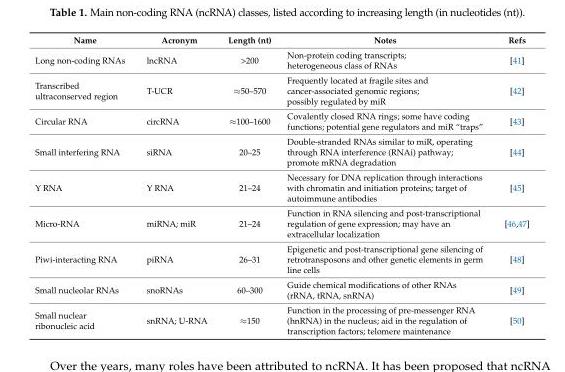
<table><thead><tr><td>Name</td><td>Acronym</td><td>Length (nt)</td><td>Notes</td><td>Refs</td></tr></thead><tbody><tr><td>Long non-coding RNAs</td><td>lncRNA</td><td>&gt;200</td><td>Non-protein coding transcripts; heterogeneous class of RNAs</td><td>[41]</td></tr><tr><td>Transcribed ultraconserved region</td><td>T-UCR</td><td>≈50–570</td><td>Frequently located at fragile sites and cancer-associated genomic regions; possibly regulated by miR</td><td>[42]</td></tr><tr><td>Circular RNA</td><td>circRNA</td><td>≈100–1600</td><td>Covalently closed RNA rings; some have coding functions; potential gene regulators and miR “traps”</td><td>[43]</td></tr><tr><td>Small interfering RNA</td><td>siRNA</td><td>20–25</td><td>Double-stranded RNAs similar to miR, operating through RNA interference (RNAi) pathway; promote mRNA degradation</td><td>[44]</td></tr><tr><td>Y RNA</td><td>Y RNA</td><td>21–24</td><td>Necessary for DNA replication through interactions with chromatin and initiation proteins; target of autoimmune antibodies</td><td>[45]</td></tr><tr><td>Micro-RNA</td><td>miRNA; miR</td><td>21–24</td><td>Function in RNA silencing and post-transcriptional regulation of gene expression; may have an extracellular localization</td><td>[46,47]</td></tr><tr><td>Piwi-interacting RNA</td><td>piRNA</td><td>26–31</td><td>Epigenetic and post-transcriptional gene silencing of retrotransposons and other genetic elements in germ line cells</td><td>[48]</td></tr><tr><td>Small nucleolar RNAs</td><td>snoRNAs</td><td>60–300</td><td>Guide chemical modifications of other RNAs (rRNA, tRNA, snRNA)</td><td>[49]</td></tr><tr><td>Small nuclear ribonucleic acid</td><td>snRNA; U-RNA</td><td>≈150</td><td>Function in the processing of pre-messenger RNA (hnRNA) in the nucleus; aid in the regulation of transcription factors; telomere maintenance</td><td>[50]</td></tr></tbody></table>